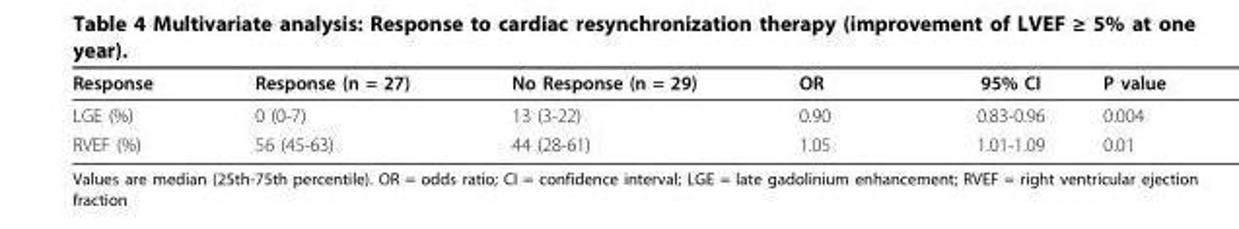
<table><thead><tr><td>Response</td><td>Response (n = 27)</td><td>No Response (n = 29)</td><td>OR</td><td>95% CI</td><td>P value</td></tr></thead><tbody><tr><td>LGE (%)</td><td>0 (0-7)</td><td>13 (3-22)</td><td>0.90</td><td>0.83-0.96</td><td>0.004</td></tr><tr><td>RVEF (%)</td><td>56 (45-63)</td><td>44 (28-61)</td><td>1.05</td><td>1.01-1.09</td><td>0.01</td></tr></tbody></table>